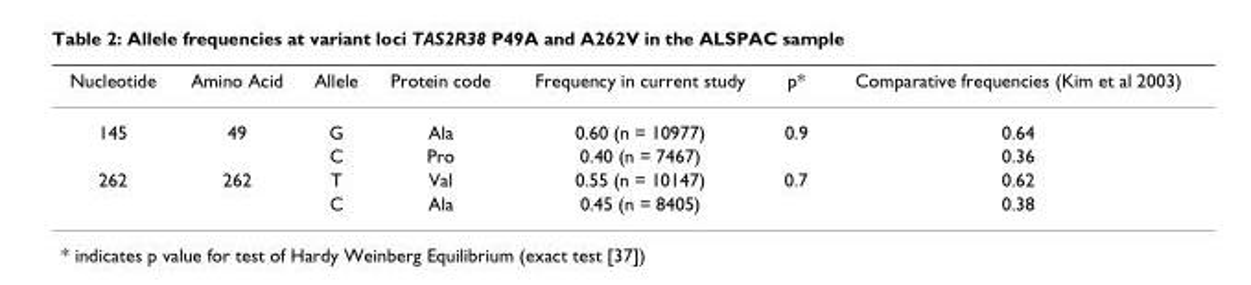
<table><thead><tr><td>Nucleotide</td><td>Amino Acid</td><td>Allele</td><td>Protein code</td><td>Frequency in current study</td><td>p*</td><td>Comparative frequencies (Kim et al 2003)</td></tr></thead><tbody><tr><td rowspan="2">145</td><td>49</td><td>G</td><td>Ala</td><td>0.60 (n = 10977)</td><td>0.9</td><td>0.64</td></tr><tr><td></td><td>C</td><td>Pro</td><td>0.40 (n = 7467)</td><td></td><td>0.36</td></tr><tr><td rowspan="2">262</td><td>262</td><td>T</td><td>Val</td><td>0.55 (n = 10147)</td><td>0.7</td><td>0.62</td></tr><tr><td></td><td>C</td><td>Ala</td><td>0.45 (n = 8405)</td><td></td><td>0.38</td></tr></tbody></table>